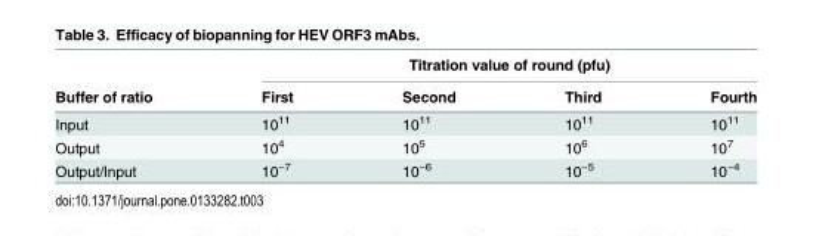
<table><thead><tr><td rowspan="2">Buffer of ratio</td><td colspan="4">Titration value of round (pfu)</td></tr><tr><td>First</td><td>Second</td><td>Third</td><td>Fourth</td></tr></thead><tbody><tr><td>Input</td><td>10<sup>11</sup></td><td>10<sup>11</sup></td><td>10<sup>11</sup></td><td>10<sup>11</sup></td></tr><tr><td>Output</td><td>10<sup>4</sup></td><td>10<sup>5</sup></td><td>10<sup>6</sup></td><td>10<sup>7</sup></td></tr><tr><td>Output/Input</td><td>10<sup>−7</sup></td><td>10<sup>−6</sup></td><td>10<sup>−5</sup></td><td>10<sup>−4</sup></td></tr></tbody></table>